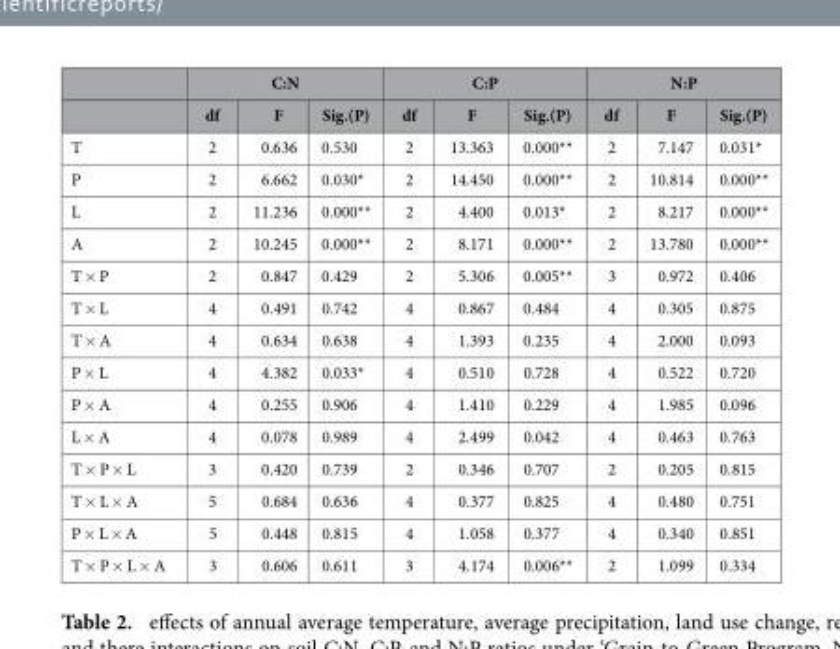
<table><thead><tr><td rowspan="2"></td><td colspan="3">C:N</td><td colspan="3">C:P</td><td colspan="3">N:P</td></tr><tr><td>df</td><td>F</td><td>Sig.(P)</td><td>df</td><td>F</td><td>Sig.(P)</td><td>df</td><td>F</td><td>Sig.(P)</td></tr></thead><tbody><tr><td>T</td><td>2</td><td>0.636</td><td>0.530</td><td>2</td><td>13.363</td><td>0.000**</td><td>2</td><td>7.147</td><td>0.031*</td></tr><tr><td>P</td><td>2</td><td>6.662</td><td>0.030*</td><td>2</td><td>14.450</td><td>0.000**</td><td>2</td><td>10.814</td><td>0.000**</td></tr><tr><td>L</td><td>2</td><td>11.236</td><td>0.000**</td><td>2</td><td>4.400</td><td>0.013*</td><td>2</td><td>8.217</td><td>0.000**</td></tr><tr><td>A</td><td>2</td><td>10.245</td><td>0.000**</td><td>2</td><td>8.171</td><td>0.000**</td><td>2</td><td>13.780</td><td>0.000**</td></tr><tr><td>T × P</td><td>2</td><td>0.847</td><td>0.429</td><td>2</td><td>5.306</td><td>0.005**</td><td>3</td><td>0.972</td><td>0.406</td></tr><tr><td>T × L</td><td>4</td><td>0.491</td><td>0.742</td><td>4</td><td>0.867</td><td>0.484</td><td>4</td><td>0.305</td><td>0.875</td></tr><tr><td>T × A</td><td>4</td><td>0.634</td><td>0.638</td><td>4</td><td>1.393</td><td>0.235</td><td>4</td><td>2.000</td><td>0.093</td></tr><tr><td>P × L</td><td>4</td><td>4.382</td><td>0.033*</td><td>4</td><td>0.510</td><td>0.728</td><td>4</td><td>0.522</td><td>0.720</td></tr><tr><td>P × A</td><td>4</td><td>0.255</td><td>0.906</td><td>4</td><td>1.410</td><td>0.229</td><td>4</td><td>1.985</td><td>0.096</td></tr><tr><td>L × A</td><td>4</td><td>0.078</td><td>0.989</td><td>4</td><td>2.499</td><td>0.042</td><td>4</td><td>0.463</td><td>0.763</td></tr><tr><td>T × P × L</td><td>3</td><td>0.420</td><td>0.739</td><td>2</td><td>0.346</td><td>0.707</td><td>2</td><td>0.205</td><td>0.815</td></tr><tr><td>T × L × A</td><td>5</td><td>0.684</td><td>0.636</td><td>4</td><td>0.377</td><td>0.825</td><td>4</td><td>0.480</td><td>0.751</td></tr><tr><td>P × L × A</td><td>5</td><td>0.448</td><td>0.815</td><td>4</td><td>1.058</td><td>0.377</td><td>4</td><td>0.340</td><td>0.851</td></tr><tr><td>T × P × L × A</td><td>3</td><td>0.606</td><td>0.611</td><td>3</td><td>4.174</td><td>0.006**</td><td>2</td><td>1.099</td><td>0.334</td></tr></tbody></table>